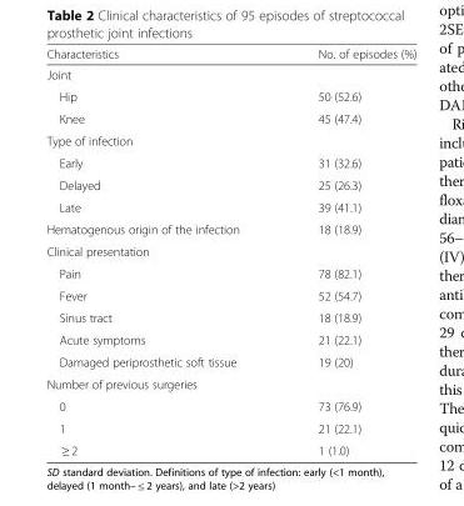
<table><thead><tr><td>Characteristics</td><td>No. of episodes (%)</td></tr></thead><tbody><tr><td colspan="2">Joint</td></tr><tr><td>Hip</td><td>50 (52.6)</td></tr><tr><td>Knee</td><td>45 (47.4)</td></tr><tr><td colspan="2">Type of infection</td></tr><tr><td>Early</td><td>31 (32.6)</td></tr><tr><td>Delayed</td><td>25 (26.3)</td></tr><tr><td>Late</td><td>39 (41.1)</td></tr><tr><td>Hematogenous origin of the infection</td><td>18 (18.9)</td></tr><tr><td colspan="2">Clinical presentation</td></tr><tr><td>Pain</td><td>78 (82.1)</td></tr><tr><td>Fever</td><td>52 (54.7)</td></tr><tr><td>Sinus tract</td><td>18 (18.9)</td></tr><tr><td>Acute symptoms</td><td>21 (22.1)</td></tr><tr><td>Damaged periprosthetic soft tissue</td><td>19 (20)</td></tr><tr><td colspan="2">Number of previous surgeries</td></tr><tr><td>0</td><td>73 (76.9)</td></tr><tr><td>1</td><td>21 (22.1)</td></tr><tr><td>≥ 2</td><td>1 (1.0)</td></tr></tbody></table>